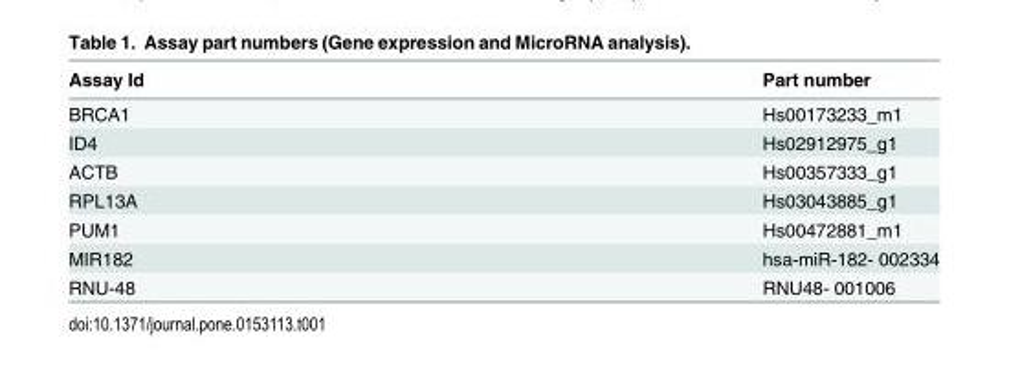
<table><thead><tr><td>Assay Id</td><td>Part number</td></tr></thead><tbody><tr><td>BRCA1</td><td>Hs00173233_m1</td></tr><tr><td>ID4</td><td>Hs02912975_g1</td></tr><tr><td>ACTB</td><td>Hs00357333_g1</td></tr><tr><td>RPL13A</td><td>Hs03043885_g1</td></tr><tr><td>PUM1</td><td>Hs00472881_m1</td></tr><tr><td>MIR182</td><td>hsa-miR-182- 002334</td></tr><tr><td>RNU-48</td><td>RNU48- 001006</td></tr></tbody></table>